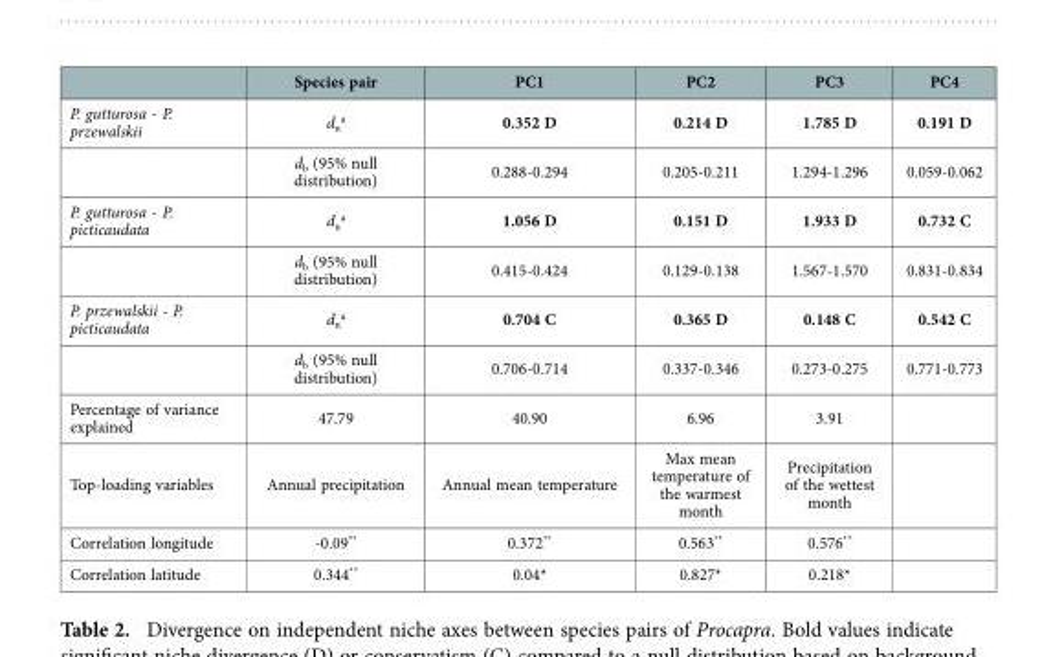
<table><thead><tr><td></td><td>Species pair</td><td>PC1</td><td>PC2</td><td>PC3</td><td>PC4</td></tr></thead><tbody><tr><td rowspan="2">P. gutturosa - P. przewalskii</td><td>d<sub>n</sub> <sup>a</sup></td><td>0.352 D</td><td>0.214 D</td><td>1.785 D</td><td>0.191 D</td></tr><tr><td>d<sub>b</sub> (95% null distribution)</td><td>0.288-0.294</td><td>0.205-0.211</td><td>1.294-1.296</td><td>0.059-0.062</td></tr><tr><td rowspan="2">P. gutturosa - P. picticaudata</td><td>d<sub>n</sub> <sup>a</sup></td><td>1.056 D</td><td>0.151 D</td><td>1.933 D</td><td>0.732 C</td></tr><tr><td>d<sub>b</sub> (95% null distribution)</td><td>0.415-0.424</td><td>0.129-0.138</td><td>1.567-1.570</td><td>0.831-0.834</td></tr><tr><td rowspan="2">P. przewalskii - P. picticaudata</td><td>d<sub>n</sub> <sup>a</sup></td><td>0.704 C</td><td>0.365 D</td><td>0.148 C</td><td>0.542 C</td></tr><tr><td>d<sub>b</sub> (95% null distribution)</td><td>0.706-0.714</td><td>0.337-0.346</td><td>0.273-0.275</td><td>0.771-0.773</td></tr><tr><td>Percentage of variance explained</td><td>47.79</td><td>40.90</td><td>6.96</td><td>3.91</td><td></td></tr><tr><td>Top-loading variables</td><td>Annual precipitation</td><td>Annual mean temperature</td><td>Max mean temperature of the warmest month</td><td>Precipitation of the wettest month</td><td></td></tr><tr><td>Correlation longitude</td><td>-0.09**</td><td>0.372**</td><td>0.563**</td><td>0.576**</td><td></td></tr><tr><td>Correlation latitude</td><td>0.344**</td><td>0.04*</td><td>0.827*</td><td>0.218*</td><td></td></tr></tbody></table>